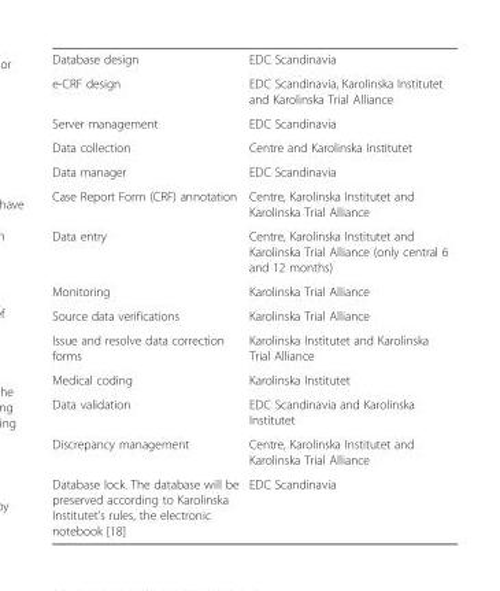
<table><tbody><tr><td>Database design</td><td>EDC Scandinavia</td></tr><tr><td>e-CRF design</td><td>EDC Scandinavia, Karolinska Institutet and Karolinska Trial Alliance</td></tr><tr><td>Server management</td><td>EDC Scandinavia</td></tr><tr><td>Data collection</td><td>Centre and Karolinska Institutet</td></tr><tr><td>Data manager</td><td>EDC Scandinavia</td></tr><tr><td>Case Report Form (CRF) annotation</td><td>Centre, Karolinska Institutet and Karolinska Trial Alliance</td></tr><tr><td>Data entry</td><td>Centre, Karolinska Institutet and Karolinska Trial Alliance (only central 6 and 12 months)</td></tr><tr><td>Monitoring</td><td>Karolinska Trial Alliance</td></tr><tr><td>Source data verifications</td><td>Karolinska Trial Alliance</td></tr><tr><td>Issue and resolve data correction forms</td><td>Karolinska Institutet and Karolinska Trial Alliance</td></tr><tr><td>Medical coding</td><td>Karolinska Institutet</td></tr><tr><td>Data validation</td><td>EDC Scandinavia and Karolinska Institutet</td></tr><tr><td>Discrepancy management</td><td>Centre, Karolinska Institutet and Karolinska Trial Alliance</td></tr><tr><td>Database lock. The database will be preserved according to Karolinska Institutet’s rules, the electronic notebook [18]</td><td>EDC Scandinavia</td></tr></tbody></table>